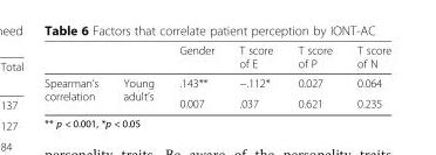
<table><thead><tr><td></td><td></td><td>Gender</td><td>T score of E</td><td>T score of P</td><td>T score of N</td></tr></thead><tbody><tr><td rowspan="2">Spearman’s correlation</td><td rowspan="2">Young adult’s</td><td>.143**</td><td>−.112*</td><td>0.027</td><td>0.064</td></tr><tr><td>0.007</td><td>.037</td><td>0.621</td><td>0.235</td></tr></tbody></table>